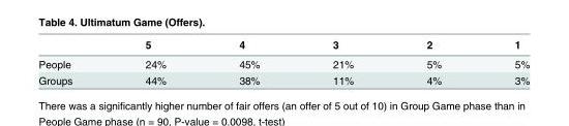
<table><thead><tr><td></td><td>5</td><td>4</td><td>3</td><td>2</td><td>1</td></tr></thead><tbody><tr><td>People</td><td>24%</td><td>45%</td><td>21%</td><td>5%</td><td>5%</td></tr><tr><td>Groups</td><td>44%</td><td>38%</td><td>11%</td><td>4%</td><td>3%</td></tr></tbody></table>